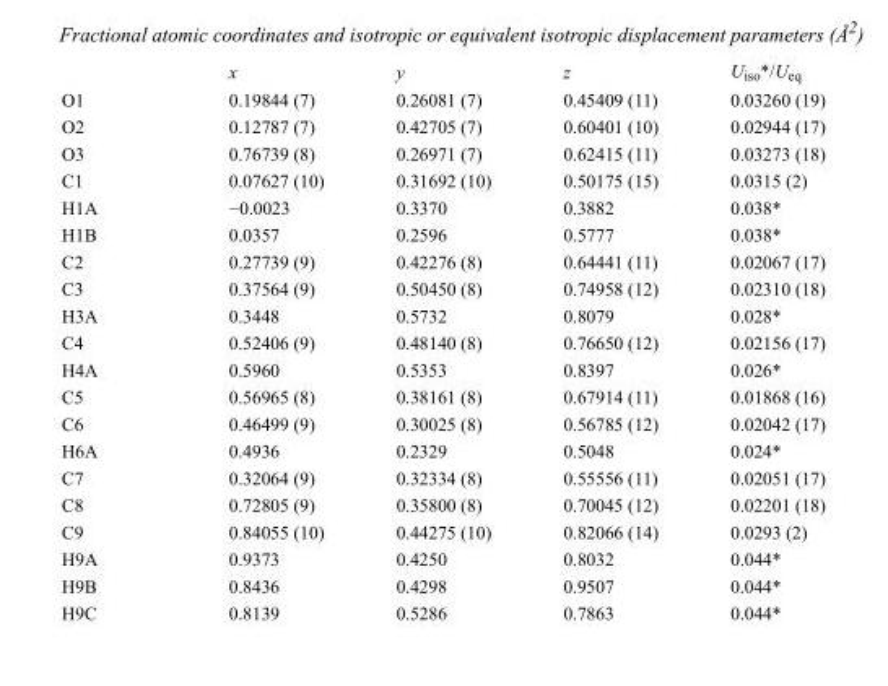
<table><thead><tr><td></td><td>x</td><td>y</td><td>z</td><td>U<sub>iso</sub>*/U<sub>eq</sub></td></tr></thead><tbody><tr><td>O1</td><td>0.19844 (7)</td><td>0.26081 (7)</td><td>0.45409 (11)</td><td>0.03260 (19)</td></tr><tr><td>O2</td><td>0.12787 (7)</td><td>0.42705 (7)</td><td>0.60401 (10)</td><td>0.02944 (17)</td></tr><tr><td>O3</td><td>0.76739 (8)</td><td>0.26971 (7)</td><td>0.62415 (11)</td><td>0.03273 (18)</td></tr><tr><td>C1</td><td>0.07627 (10)</td><td>0.31692 (10)</td><td>0.50175 (15)</td><td>0.0315 (2)</td></tr><tr><td>H1A</td><td>−0.0023</td><td>0.3370</td><td>0.3882</td><td>0.038*</td></tr><tr><td>H1B</td><td>0.0357</td><td>0.2596</td><td>0.5777</td><td>0.038*</td></tr><tr><td>C2</td><td>0.27739 (9)</td><td>0.42276 (8)</td><td>0.64441 (11)</td><td>0.02067 (17)</td></tr><tr><td>C3</td><td>0.37564 (9)</td><td>0.50450 (8)</td><td>0.74958 (12)</td><td>0.02310 (18)</td></tr><tr><td>H3A</td><td>0.3448</td><td>0.5732</td><td>0.8079</td><td>0.028*</td></tr><tr><td>C4</td><td>0.52406 (9)</td><td>0.48140 (8)</td><td>0.76650 (12)</td><td>0.02156 (17)</td></tr><tr><td>H4A</td><td>0.5960</td><td>0.5353</td><td>0.8397</td><td>0.026*</td></tr><tr><td>C5</td><td>0.56965 (8)</td><td>0.38161 (8)</td><td>0.67914 (11)</td><td>0.01868 (16)</td></tr><tr><td>C6</td><td>0.46499 (9)</td><td>0.30025 (8)</td><td>0.56785 (12)</td><td>0.02042 (17)</td></tr><tr><td>H6A</td><td>0.4936</td><td>0.2329</td><td>0.5048</td><td>0.024*</td></tr><tr><td>C7</td><td>0.32064 (9)</td><td>0.32334 (8)</td><td>0.55556 (11)</td><td>0.02051 (17)</td></tr><tr><td>C8</td><td>0.72805 (9)</td><td>0.35800 (8)</td><td>0.70045 (12)</td><td>0.02201 (18)</td></tr><tr><td>C9</td><td>0.84055 (10)</td><td>0.44275 (10)</td><td>0.82066 (14)</td><td>0.0293 (2)</td></tr><tr><td>H9A</td><td>0.9373</td><td>0.4250</td><td>0.8032</td><td>0.044*</td></tr><tr><td>H9B</td><td>0.8436</td><td>0.4298</td><td>0.9507</td><td>0.044*</td></tr><tr><td>H9C</td><td>0.8139</td><td>0.5286</td><td>0.7863</td><td>0.044*</td></tr></tbody></table>